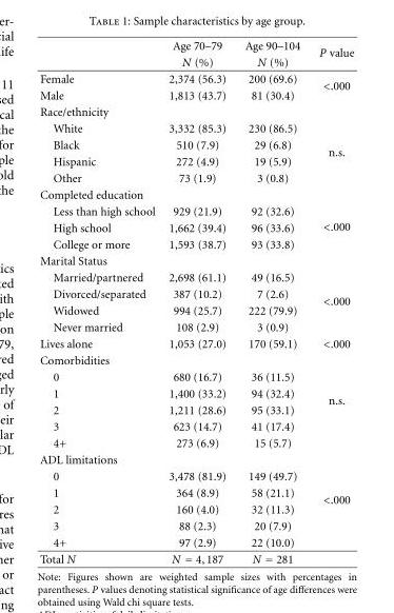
<table><thead><tr><td rowspan="2"></td><td rowspan="2">Age 70–79 N (%)</td><td rowspan="2">Age 90–104 N (%)</td><td rowspan="2">P value</td></tr><tr></tr></thead><tbody><tr><td>Female</td><td>2,374 (56.3)</td><td>200 (69.6)</td><td rowspan="2">&lt;.000</td></tr><tr><td>Male</td><td>1,813 (43.7)</td><td>81 (30.4)</td></tr><tr><td colspan="4">Race/ethnicity</td></tr><tr><td>White</td><td>3,332 (85.3)</td><td>230 (86.5)</td><td rowspan="4">n.s.</td></tr><tr><td>Black</td><td>510 (7.9)</td><td>29 (6.8)</td></tr><tr><td>Hispanic</td><td>272 (4.9)</td><td>19 (5.9)</td></tr><tr><td>Other</td><td>73 (1.9)</td><td>3 (0.8)</td></tr><tr><td colspan="4">Completed education</td></tr><tr><td>Less than high school</td><td>929 (21.9)</td><td>92 (32.6)</td><td rowspan="3">&lt;.000</td></tr><tr><td>High school</td><td>1,662 (39.4)</td><td>96 (33.6)</td></tr><tr><td>College or more</td><td>1,593 (38.7)</td><td>93 (33.8)</td></tr><tr><td colspan="4">Marital Status</td></tr><tr><td>Married/partnered</td><td>2,698 (61.1)</td><td>49 (16.5)</td><td rowspan="4">&lt;.000</td></tr><tr><td>Divorced/separated</td><td>387 (10.2)</td><td>7 (2.6)</td></tr><tr><td>Widowed</td><td>994 (25.7)</td><td>222 (79.9)</td></tr><tr><td>Never married</td><td>108 (2.9)</td><td>3 (0.9)</td></tr><tr><td>Lives alone</td><td>1,053 (27.0)</td><td>170 (59.1)</td><td>&lt;.000</td></tr><tr><td colspan="3">Comorbidities</td><td rowspan="6">n.s.</td></tr><tr><td>0</td><td>680 (16.7)</td><td>36 (11.5)</td></tr><tr><td>1</td><td>1,400 (33.2)</td><td>94 (32.4)</td></tr><tr><td>2</td><td>1,211 (28.6)</td><td>95 (33.1)</td></tr><tr><td>3</td><td>623 (14.7)</td><td>41 (17.4)</td></tr><tr><td>4+</td><td>273 (6.9)</td><td>15 (5.7)</td></tr><tr><td colspan="3">ADL limitations</td><td rowspan="6">&lt;.000</td></tr><tr><td>0</td><td>3,478 (81.9)</td><td>149 (49.7)</td></tr><tr><td>1</td><td>364 (8.9)</td><td>58 (21.1)</td></tr><tr><td>2</td><td>160 (4.0)</td><td>32 (11.3)</td></tr><tr><td>3</td><td>88 (2.3)</td><td>20 (7.9)</td></tr><tr><td>4+</td><td>97 (2.9)</td><td>22 (10.0)</td></tr><tr><td>Total N</td><td>N = 4,187</td><td>N = 281</td><td></td></tr></tbody></table>